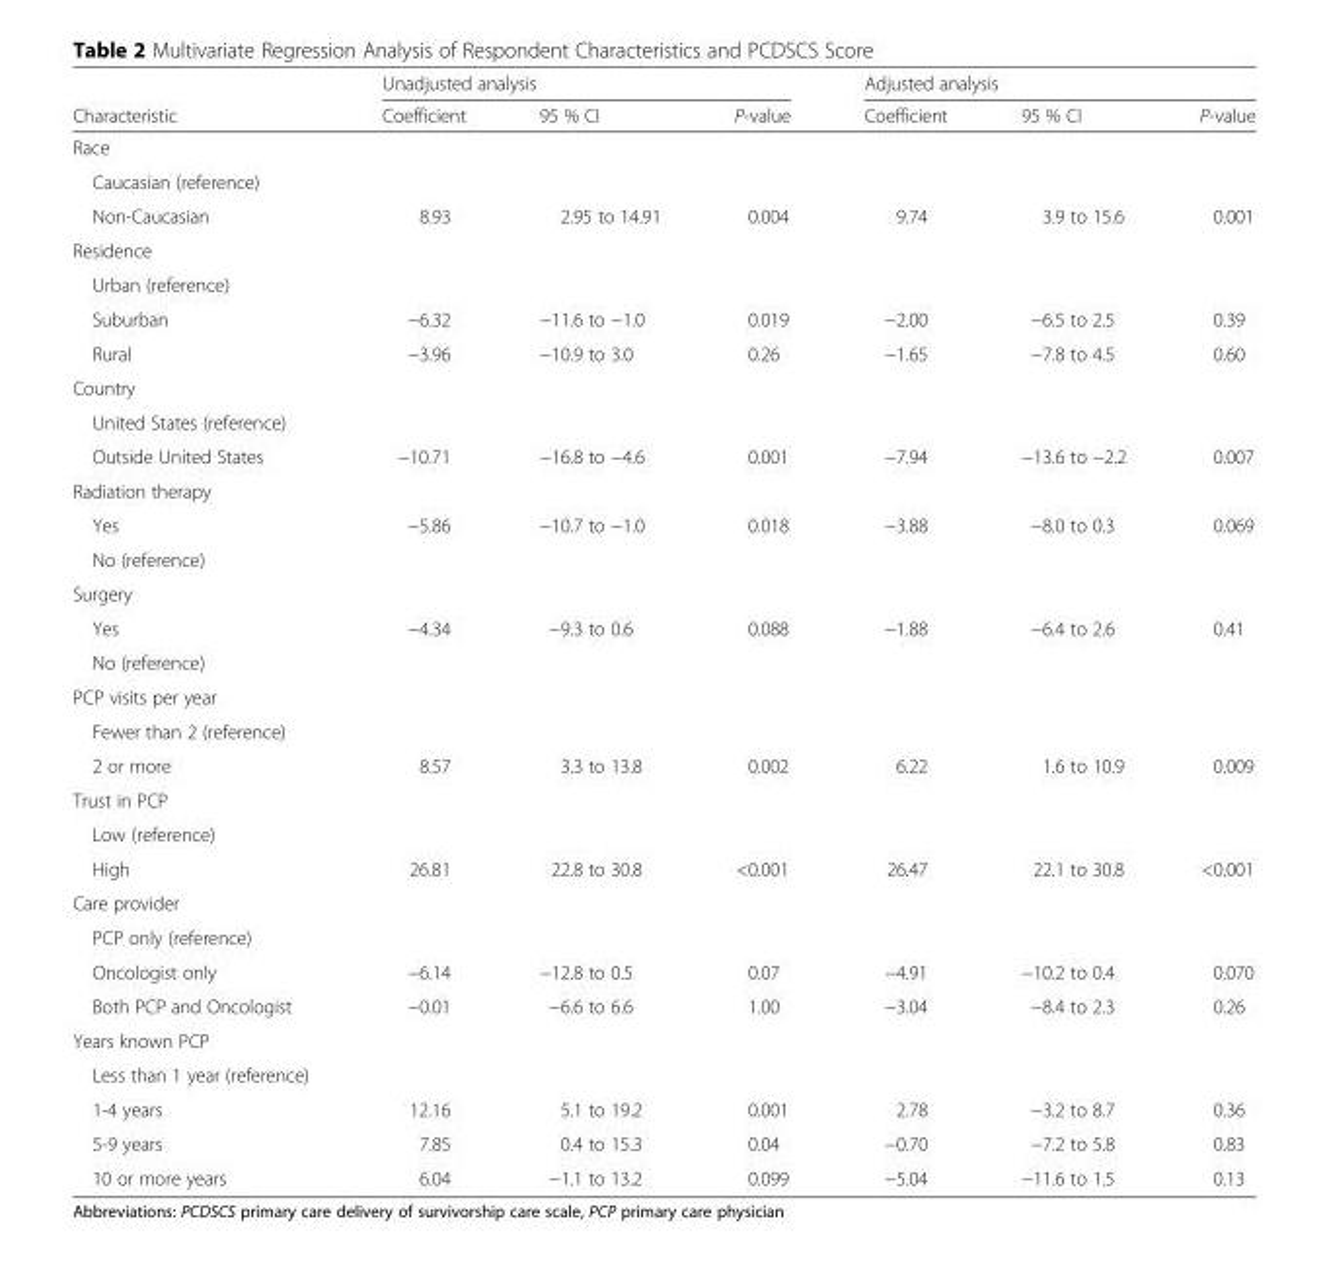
<table><thead><tr><td rowspan="2">Characteristic</td><td colspan="3">Unadjusted analysis</td><td colspan="3">Adjusted analysis</td></tr><tr><td>Coefficient</td><td>95 % CI</td><td>P-value</td><td>Coefficient</td><td>95 % CI</td><td>P-value</td></tr></thead><tbody><tr><td colspan="7">Race</td></tr><tr><td colspan="7">Caucasian (reference)</td></tr><tr><td>Non-Caucasian</td><td>8.93</td><td>2.95 to 14.91</td><td>0.004</td><td>9.74</td><td>3.9 to 15.6</td><td>0.001</td></tr><tr><td colspan="7">Residence</td></tr><tr><td colspan="7">Urban (reference)</td></tr><tr><td>Suburban</td><td>−6.32</td><td>−11.6 to −1.0</td><td>0.019</td><td>−2.00</td><td>−6.5 to 2.5</td><td>0.39</td></tr><tr><td>Rural</td><td>−3.96</td><td>−10.9 to 3.0</td><td>0.26</td><td>−1.65</td><td>−7.8 to 4.5</td><td>0.60</td></tr><tr><td colspan="7">Country</td></tr><tr><td colspan="7">United States (reference)</td></tr><tr><td>Outside United States</td><td>−10.71</td><td>−16.8 to −4.6</td><td>0.001</td><td>−7.94</td><td>−13.6 to −2.2</td><td>0.007</td></tr><tr><td colspan="7">Radiation therapy</td></tr><tr><td>Yes</td><td>−5.86</td><td>−10.7 to −1.0</td><td>0.018</td><td>−3.88</td><td>−8.0 to 0.3</td><td>0.069</td></tr><tr><td colspan="7">No (reference)</td></tr><tr><td colspan="7">Surgery</td></tr><tr><td>Yes</td><td>−4.34</td><td>−9.3 to 0.6</td><td>0.088</td><td>−1.88</td><td>−6.4 to 2.6</td><td>0.41</td></tr><tr><td colspan="7">No (reference)</td></tr><tr><td colspan="7">PCP visits per year</td></tr><tr><td colspan="7">Fewer than 2 (reference)</td></tr><tr><td>2 or more</td><td>8.57</td><td>3.3 to 13.8</td><td>0.002</td><td>6.22</td><td>1.6 to 10.9</td><td>0.009</td></tr><tr><td colspan="7">Trust in PCP</td></tr><tr><td colspan="7">Low (reference)</td></tr><tr><td>High</td><td>26.81</td><td>22.8 to 30.8</td><td>&lt;0.001</td><td>26.47</td><td>22.1 to 30.8</td><td>&lt;0.001</td></tr><tr><td colspan="7">Care provider</td></tr><tr><td colspan="7">PCP only (reference)</td></tr><tr><td>Oncologist only</td><td>−6.14</td><td>−12.8 to 0.5</td><td>0.07</td><td>−4.91</td><td>−10.2 to 0.4</td><td>0.070</td></tr><tr><td>Both PCP and Oncologist</td><td>−0.01</td><td>−6.6 to 6.6</td><td>1.00</td><td>−3.04</td><td>−8.4 to 2.3</td><td>0.26</td></tr><tr><td colspan="7">Years known PCP</td></tr><tr><td colspan="7">Less than 1 year (reference)</td></tr><tr><td>1-4 years</td><td>12.16</td><td>5.1 to 19.2</td><td>0.001</td><td>2.78</td><td>−3.2 to 8.7</td><td>0.36</td></tr><tr><td>5-9 years</td><td>7.85</td><td>0.4 to 15.3</td><td>0.04</td><td>−0.70</td><td>−7.2 to 5.8</td><td>0.83</td></tr><tr><td>10 or more years</td><td>6.04</td><td>−1.1 to 13.2</td><td>0.099</td><td>−5.04</td><td>−11.6 to 1.5</td><td>0.13</td></tr></tbody></table>